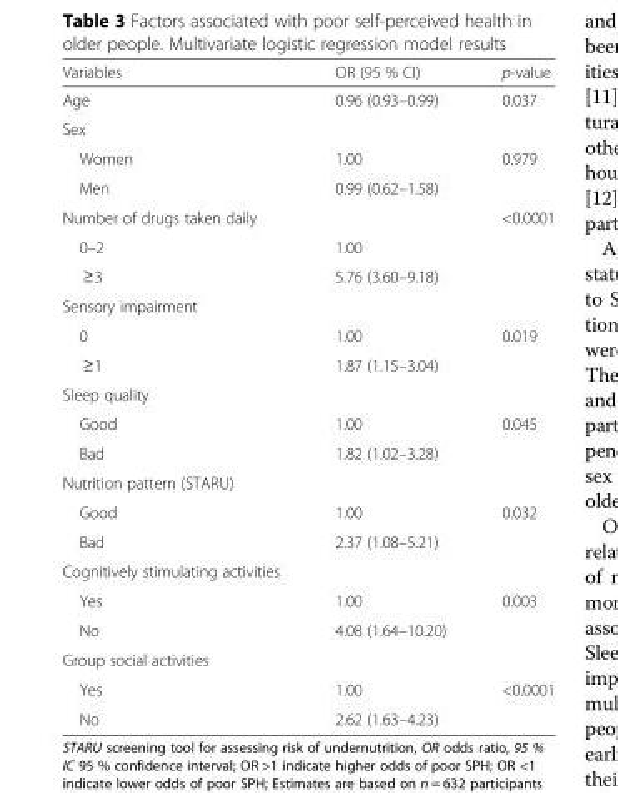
<table><thead><tr><td>Variables</td><td>OR (95 % CI)</td><td>p-value</td></tr></thead><tbody><tr><td>Age</td><td>0.96 (0.93–0.99)</td><td>0.037</td></tr><tr><td colspan="3">Sex</td></tr><tr><td>Women</td><td>1.00</td><td rowspan="2">0.979</td></tr><tr><td>Men</td><td>0.99 (0.62–1.58)</td></tr><tr><td colspan="2">Number of drugs taken daily</td><td rowspan="3">&lt;0.0001</td></tr><tr><td>0–2</td><td>1.00</td></tr><tr><td>≥3</td><td>5.76 (3.60–9.18)</td></tr><tr><td colspan="3">Sensory impairment</td></tr><tr><td>0</td><td>1.00</td><td rowspan="2">0.019</td></tr><tr><td>≥1</td><td>1.87 (1.15–3.04)</td></tr><tr><td colspan="3">Sleep quality</td></tr><tr><td>Good</td><td>1.00</td><td rowspan="2">0.045</td></tr><tr><td>Bad</td><td>1.82 (1.02–3.28)</td></tr><tr><td colspan="3">Nutrition pattern (STARU)</td></tr><tr><td>Good</td><td>1.00</td><td rowspan="2">0.032</td></tr><tr><td>Bad</td><td>2.37 (1.08–5.21)</td></tr><tr><td colspan="3">Cognitively stimulating activities</td></tr><tr><td>Yes</td><td>1.00</td><td rowspan="2">0.003</td></tr><tr><td>No</td><td>4.08 (1.64–10.20)</td></tr><tr><td colspan="3">Group social activities</td></tr><tr><td>Yes</td><td>1.00</td><td rowspan="2">&lt;0.0001</td></tr><tr><td>No</td><td>2.62 (1.63–4.23)</td></tr></tbody></table>